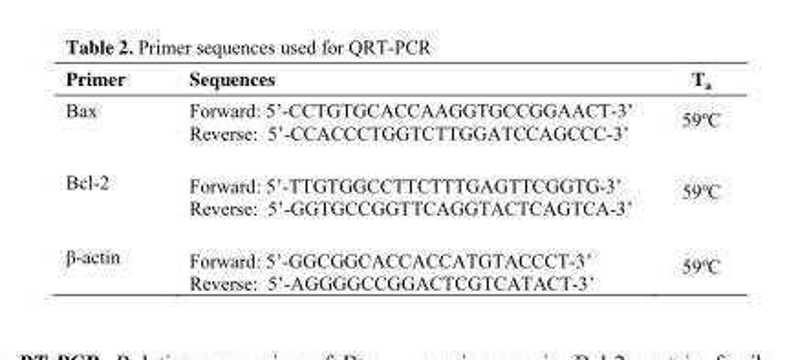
<table><thead><tr><td>Primer</td><td>Sequences</td><td>T<sub>a</sub></td></tr></thead><tbody><tr><td>Bax</td><td>Forward: 5’-CCTGTGCACCAAGGTGCCGGAACT-3’ Reverse: 5’-CCACCCTGGTCTTGGATCCAGCCC-3’</td><td>59ºC</td></tr><tr><td>Bcl-2</td><td>Forward: 5’-TTGTGGCCTTCTTTGAGTTCGGTG-3’ Reverse: 5’-GGTGCCGGTTCAGGTACTCAGTCA-3’</td><td>59ºC</td></tr><tr><td>β-actin</td><td>Forward: 5’-GGCGGCACCACCATGTACCCT-3’ Reverse: 5’-AGGGGCCGGACTCGTCATACT-3’</td><td>59ºC</td></tr></tbody></table>